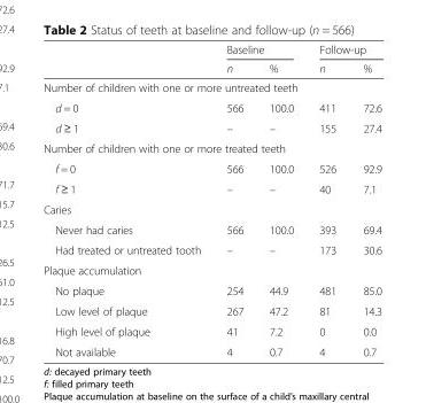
<table><thead><tr><td rowspan="2"></td><td colspan="2">Baseline</td><td colspan="2">Follow-up</td></tr><tr><td>n</td><td>%</td><td>n</td><td>%</td></tr></thead><tbody><tr><td colspan="5">Number of children with one or more untreated teeth</td></tr><tr><td>d = 0</td><td>566</td><td>100.0</td><td>411</td><td>72.6</td></tr><tr><td>d ≥ 1</td><td>–</td><td>–</td><td>155</td><td>27.4</td></tr><tr><td colspan="5">Number of children with one or more treated teeth</td></tr><tr><td>f = 0</td><td>566</td><td>100.0</td><td>526</td><td>92.9</td></tr><tr><td>f ≥ 1</td><td>–</td><td>–</td><td>40</td><td>7.1</td></tr><tr><td colspan="5">Caries</td></tr><tr><td>Never had caries</td><td>566</td><td>100.0</td><td>393</td><td>69.4</td></tr><tr><td>Had treated or untreated tooth</td><td>–</td><td>–</td><td>173</td><td>30.6</td></tr><tr><td colspan="5">Plaque accumulation</td></tr><tr><td>No plaque</td><td>254</td><td>44.9</td><td>481</td><td>85.0</td></tr><tr><td>Low level of plaque</td><td>267</td><td>47.2</td><td>81</td><td>14.3</td></tr><tr><td>High level of plaque</td><td>41</td><td>7.2</td><td>0</td><td>0.0</td></tr><tr><td>Not available</td><td>4</td><td>0.7</td><td>4</td><td>0.7</td></tr></tbody></table>